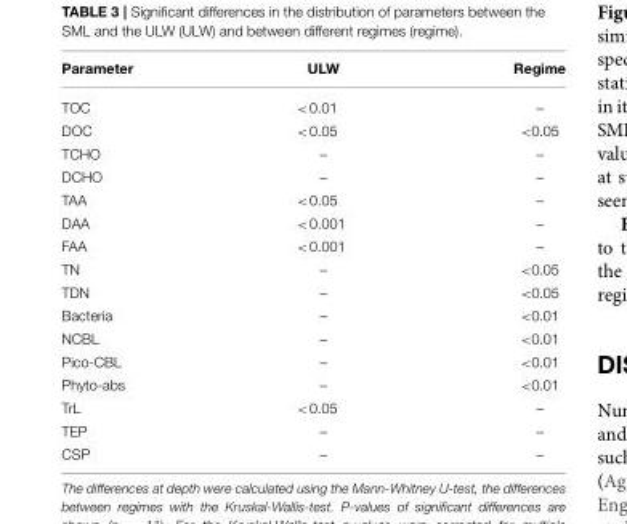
<table><thead><tr><td>Parameter</td><td>ULW</td><td>Regime</td></tr></thead><tbody><tr><td>TOC</td><td>&lt;0.01</td><td>–</td></tr><tr><td>DOC</td><td>&lt;0.05</td><td>&lt;0.05</td></tr><tr><td>TCHO</td><td>–</td><td>–</td></tr><tr><td>DCHO</td><td>–</td><td>–</td></tr><tr><td>TAA</td><td>&lt;0.05</td><td>–</td></tr><tr><td>DAA</td><td>&lt;0.001</td><td>–</td></tr><tr><td>FAA</td><td>&lt;0.001</td><td>–</td></tr><tr><td>TN</td><td>–</td><td>&lt;0.05</td></tr><tr><td>TDN</td><td>–</td><td>&lt;0.05</td></tr><tr><td>Bacteria</td><td>–</td><td>&lt;0.01</td></tr><tr><td>NCBL</td><td>–</td><td>&lt;0.01</td></tr><tr><td>Pico-CBL</td><td>–</td><td>&lt;0.01</td></tr><tr><td>Phyto-abs</td><td>–</td><td>&lt;0.01</td></tr><tr><td>TrL</td><td>&lt;0.05</td><td>–</td></tr><tr><td>TEP</td><td>–</td><td>–</td></tr><tr><td>CSP</td><td>–</td><td>–</td></tr></tbody></table>